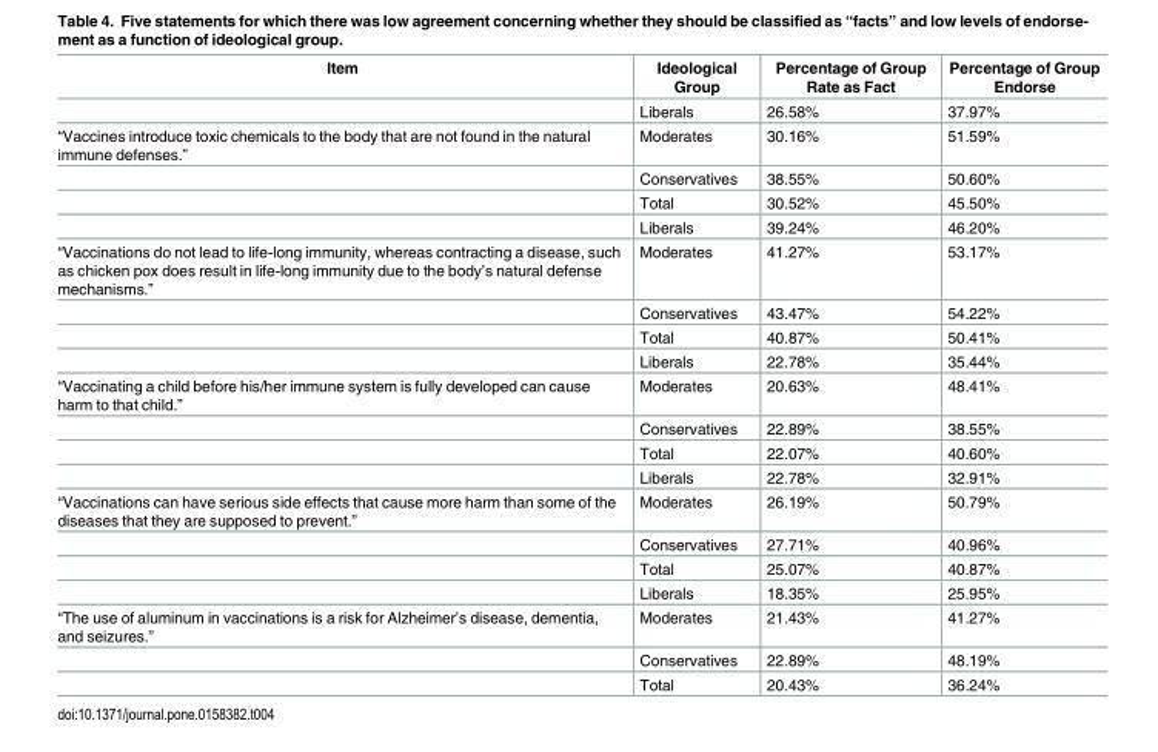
<table><thead><tr><td>Item</td><td>Ideological Group</td><td>Percentage of Group Rate as Fact</td><td>Percentage of Group Endorse</td></tr></thead><tbody><tr><td></td><td>Liberals</td><td>26.58%</td><td>37.97%</td></tr><tr><td rowspan="4">“Vaccines introduce toxic chemicals to the body that are not found in the natural immune defenses.”</td><td>Moderates</td><td>30.16%</td><td>51.59%</td></tr><tr><td>Conservatives</td><td>38.55%</td><td>50.60%</td></tr><tr><td>Total</td><td>30.52%</td><td>45.50%</td></tr><tr><td>Liberals</td><td>39.24%</td><td>46.20%</td></tr><tr><td rowspan="4">“Vaccinations do not lead to life-long immunity, whereas contracting a disease, such as chicken pox does result in life-long immunity due to the body’s natural defense mechanisms.”</td><td>Moderates</td><td>41.27%</td><td>53.17%</td></tr><tr><td>Conservatives</td><td>43.47%</td><td>54.22%</td></tr><tr><td>Total</td><td>40.87%</td><td>50.41%</td></tr><tr><td>Liberals</td><td>22.78%</td><td>35.44%</td></tr><tr><td rowspan="4">“Vaccinating a child before his/her immune system is fully developed can cause harm to that child.”</td><td>Moderates</td><td>20.63%</td><td>48.41%</td></tr><tr><td>Conservatives</td><td>22.89%</td><td>38.55%</td></tr><tr><td>Total</td><td>22.07%</td><td>40.60%</td></tr><tr><td>Liberals</td><td>22.78%</td><td>32.91%</td></tr><tr><td rowspan="4">“Vaccinations can have serious side effects that cause more harm than some of the diseases that they are supposed to prevent.”</td><td>Moderates</td><td>26.19%</td><td>50.79%</td></tr><tr><td>Conservatives</td><td>27.71%</td><td>40.96%</td></tr><tr><td>Total</td><td>25.07%</td><td>40.87%</td></tr><tr><td>Liberals</td><td>18.35%</td><td>25.95%</td></tr><tr><td rowspan="3">“The use of aluminum in vaccinations is a risk for Alzheimer’s disease, dementia, and seizures.”</td><td>Moderates</td><td>21.43%</td><td>41.27%</td></tr><tr><td>Conservatives</td><td>22.89%</td><td>48.19%</td></tr><tr><td>Total</td><td>20.43%</td><td>36.24%</td></tr></tbody></table>